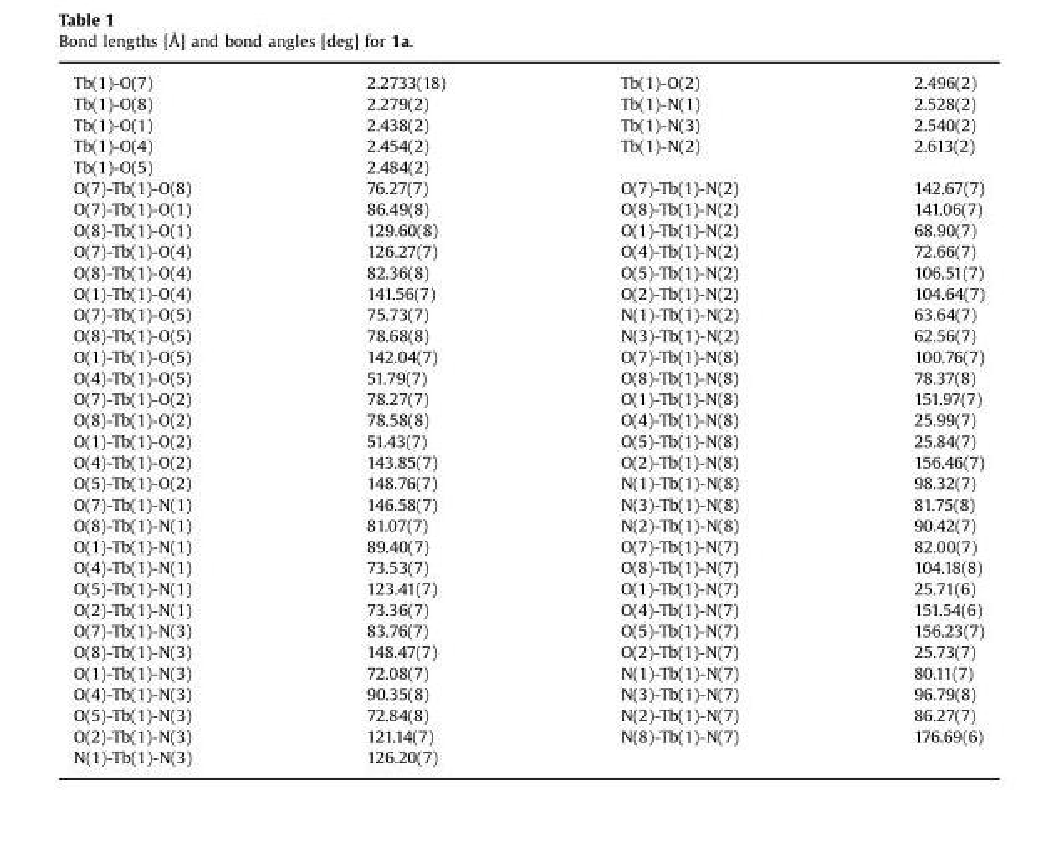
<table><tbody><tr><td>Tb(1)-O(7)</td><td>2.2733(18)</td><td>Tb(1)-O(2)</td><td>2.496(2)</td></tr><tr><td>Tb(1)-O(8)</td><td>2.279(2)</td><td>Tb(1)-N(1)</td><td>2.528(2)</td></tr><tr><td>Tb(1)-O(1)</td><td>2.438(2)</td><td>Tb(1)-N(3)</td><td>2.540(2)</td></tr><tr><td>Tb(1)-O(4)</td><td>2.454(2)</td><td>Tb(1)-N(2)</td><td>2.613(2)</td></tr><tr><td>Tb(1)-O(5)</td><td>2.484(2)</td><td></td><td></td></tr><tr><td>O(7)-Tb(1)-O(8)</td><td>76.27(7)</td><td>O(7)-Tb(1)-N(2)</td><td>142.67(7)</td></tr><tr><td>O(7)-Tb(1)-O(1)</td><td>86.49(8)</td><td>O(8)-Tb(1)-N(2)</td><td>141.06(7)</td></tr><tr><td>O(8)-Tb(1)-O(1)</td><td>129.60(8)</td><td>O(1)-Tb(1)-N(2)</td><td>68.90(7)</td></tr><tr><td>O(7)-Tb(1)-O(4)</td><td>126.27(7)</td><td>O(4)-Tb(1)-N(2)</td><td>72.66(7)</td></tr><tr><td>O(8)-Tb(1)-O(4)</td><td>82.36(8)</td><td>O(5)-Tb(1)-N(2)</td><td>106.51(7)</td></tr><tr><td>O(1)-Tb(1)-O(4)</td><td>141.56(7)</td><td>O(2)-Tb(1)-N(2)</td><td>104.64(7)</td></tr><tr><td>O(7)-Tb(1)-O(5)</td><td>75.73(7)</td><td>N(1)-Tb(1)-N(2)</td><td>63.64(7)</td></tr><tr><td>O(8)-Tb(1)-O(5)</td><td>78.68(8)</td><td>N(3)-Tb(1)-N(2)</td><td>62.56(7)</td></tr><tr><td>O(1)-Tb(1)-O(5)</td><td>142.04(7)</td><td>O(7)-Tb(1)-N(8)</td><td>100.76(7)</td></tr><tr><td>O(4)-Tb(1)-O(5)</td><td>51.79(7)</td><td>O(8)-Tb(1)-N(8)</td><td>78.37(8)</td></tr><tr><td>O(7)-Tb(1)-O(2)</td><td>78.27(7)</td><td>O(1)-Tb(1)-N(8)</td><td>151.97(7)</td></tr><tr><td>O(8)-Tb(1)-O(2)</td><td>78.58(8)</td><td>O(4)-Tb(1)-N(8)</td><td>25.99(7)</td></tr><tr><td>O(1)-Tb(1)-O(2)</td><td>51.43(7)</td><td>O(5)-Tb(1)-N(8)</td><td>25.84(7)</td></tr><tr><td>O(4)-Tb(1)-O(2)</td><td>143.85(7)</td><td>O(2)-Tb(1)-N(8)</td><td>156.46(7)</td></tr><tr><td>O(5)-Tb(1)-O(2)</td><td>148.76(7)</td><td>N(1)-Tb(1)-N(8)</td><td>98.32(7)</td></tr><tr><td>O(7)-Tb(1)-N(1)</td><td>146.58(7)</td><td>N(3)-Tb(1)-N(8)</td><td>81.75(8)</td></tr><tr><td>O(8)-Tb(1)-N(1)</td><td>81.07(7)</td><td>N(2)-Tb(1)-N(8)</td><td>90.42(7)</td></tr><tr><td>O(1)-Tb(1)-N(1)</td><td>89.40(7)</td><td>O(7)-Tb(1)-N(7)</td><td>82.00(7)</td></tr><tr><td>O(4)-Tb(1)-N(1)</td><td>73.53(7)</td><td>O(8)-Tb(1)-N(7)</td><td>104.18(8)</td></tr><tr><td>O(5)-Tb(1)-N(1)</td><td>123.41(7)</td><td>O(1)-Tb(1)-N(7)</td><td>25.71(6)</td></tr><tr><td>O(2)-Tb(1)-N(1)</td><td>73.36(7)</td><td>O(4)-Tb(1)-N(7)</td><td>151.54(6)</td></tr><tr><td>O(7)-Tb(1)-N(3)</td><td>83.76(7)</td><td>O(5)-Tb(1)-N(7)</td><td>156.23(7)</td></tr><tr><td>O(8)-Tb(1)-N(3)</td><td>148.47(7)</td><td>O(2)-Tb(1)-N(7)</td><td>25.73(7)</td></tr><tr><td>O(1)-Tb(1)-N(3)</td><td>72.08(7)</td><td>N(1)-Tb(1)-N(7)</td><td>80.11(7)</td></tr><tr><td>O(4)-Tb(1)-N(3)</td><td>90.35(8)</td><td>N(3)-Tb(1)-N(7)</td><td>96.79(8)</td></tr><tr><td>O(5)-Tb(1)-N(3)</td><td>72.84(8)</td><td>N(2)-Tb(1)-N(7)</td><td>86.27(7)</td></tr><tr><td>O(2)-Tb(1)-N(3)</td><td>121.14(7)</td><td>N(8)-Tb(1)-N(7)</td><td>176.69(6)</td></tr><tr><td>N(1)-Tb(1)-N(3)</td><td>126.20(7)</td><td></td><td></td></tr></tbody></table>